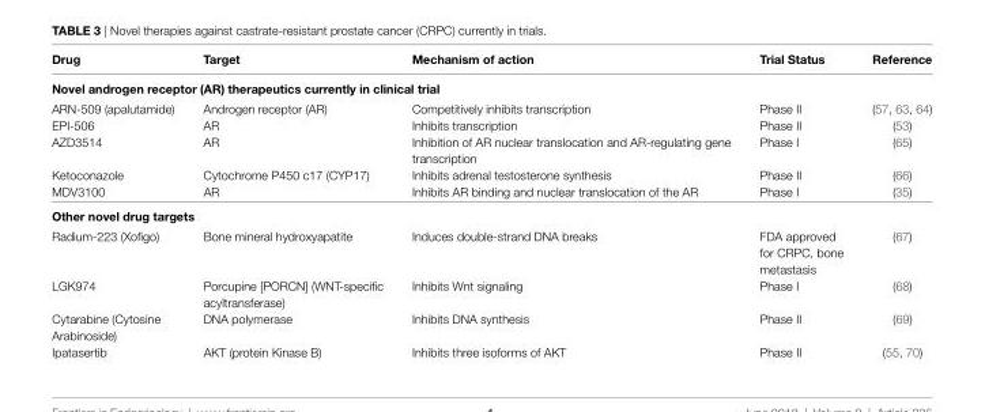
<table><thead><tr><td>Drug</td><td>Target</td><td>Mechanism of action</td><td>Trial Status</td><td>Reference</td></tr></thead><tbody><tr><td colspan="5">Novel androgen receptor (AR) therapeutics currently in clinical trial</td></tr><tr><td>ARN-509 (apalutamide)</td><td>Androgen receptor (AR)</td><td>Competitively inhibits transcription</td><td>Phase II</td><td>(57, 63, 64)</td></tr><tr><td>EPI-506</td><td>AR</td><td>Inhibits transcription</td><td>Phase II</td><td>(53)</td></tr><tr><td>AZD3514</td><td>AR</td><td>Inhibition of AR nuclear translocation and AR-regulating gene transcription</td><td>Phase I</td><td>(65)</td></tr><tr><td>Ketoconazole</td><td>Cytochrome P450 c17 (CYP17)</td><td>Inhibits adrenal testosterone synthesis</td><td>Phase II</td><td>(66)</td></tr><tr><td>MDV3100</td><td>AR</td><td>Inhibits AR binding and nuclear translocation of the AR</td><td>Phase I</td><td>(35)</td></tr><tr><td colspan="5">Other novel drug targets</td></tr><tr><td>Radium-223 (Xofigo)</td><td>Bone mineral hydroxyapatite</td><td>Induces double-strand DNA breaks</td><td>FDA approved for CRPC, bone metastasis</td><td>(67)</td></tr><tr><td>LGK974</td><td>Porcupine [PORCN] (WNT-specific acyltransferase)</td><td>Inhibits Wnt signaling</td><td>Phase I</td><td>(68)</td></tr><tr><td>Cytarabine (Cytosine Arabinoside)</td><td>DNA polymerase</td><td>Inhibits DNA synthesis</td><td>Phase II</td><td>(69)</td></tr><tr><td>Ipatasertib</td><td>AKT (protein Kinase B)</td><td>Inhibits three isoforms of AKT</td><td>Phase II</td><td>(55, 70)</td></tr></tbody></table>